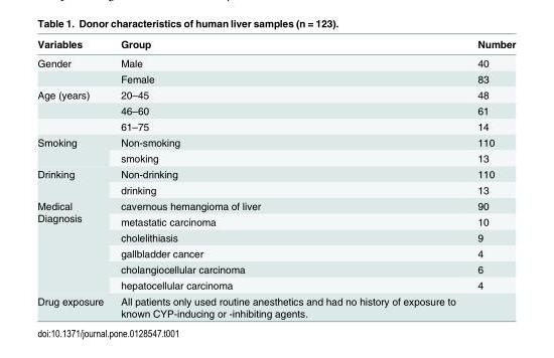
<table><thead><tr><td>Variables</td><td>Group</td><td>Number</td></tr></thead><tbody><tr><td rowspan="2">Gender</td><td>Male</td><td>40</td></tr><tr><td>Female</td><td>83</td></tr><tr><td rowspan="3">Age (years)</td><td>20–45</td><td>48</td></tr><tr><td>46–60</td><td>61</td></tr><tr><td>61–75</td><td>14</td></tr><tr><td rowspan="2">Smoking</td><td>Non-smoking</td><td>110</td></tr><tr><td>smoking</td><td>13</td></tr><tr><td rowspan="2">Drinking</td><td>Non-drinking</td><td>110</td></tr><tr><td>drinking</td><td>13</td></tr><tr><td rowspan="6">Medical Diagnosis</td><td>cavernous hemangioma of liver</td><td>90</td></tr><tr><td>metastatic carcinoma</td><td>10</td></tr><tr><td>cholelithiasis</td><td>9</td></tr><tr><td>gallbladder cancer</td><td>4</td></tr><tr><td>cholangiocellular carcinoma</td><td>6</td></tr><tr><td>hepatocellular carcinoma</td><td>4</td></tr><tr><td>Drug exposure</td><td>All patients only used routine anesthetics and had no history of exposure to known CYP-inducing or -inhibiting agents.</td><td></td></tr></tbody></table>